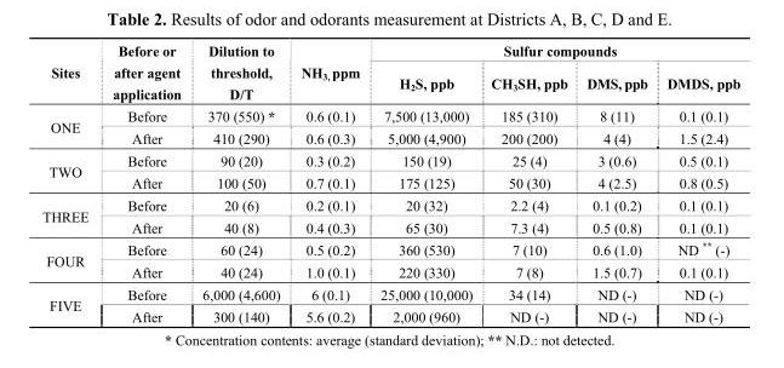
<table><thead><tr><td rowspan="2">Sites</td><td rowspan="2">Before or after agent application</td><td rowspan="2">Dilution to threshold, D/T</td><td rowspan="2">NH<sub>3,</sub> ppm</td><td colspan="4">Sulfur compounds</td></tr><tr><td>H<sub>2</sub>S, ppb</td><td>CH<sub>3</sub>SH, ppb</td><td>DMS, ppb</td><td>DMDS, ppb</td></tr></thead><tbody><tr><td rowspan="2">ONE</td><td>Before</td><td>370 (550) *</td><td>0.6 (0.1)</td><td>7,500 (13,000)</td><td>185 (310)</td><td>8 (11)</td><td>0.1 (0.1)</td></tr><tr><td>After</td><td>410 (290)</td><td>0.6 (0.3)</td><td>5,000 (4,900)</td><td>200 (200)</td><td>4 (4)</td><td>1.5 (2.4)</td></tr><tr><td rowspan="2">TWO</td><td>Before</td><td>90 (20)</td><td>0.3 (0.2)</td><td>150 (19)</td><td>25 (4)</td><td>3 (0.6)</td><td>0.5 (0.1)</td></tr><tr><td>After</td><td>100 (50)</td><td>0.7 (0.1)</td><td>175 (125)</td><td>50 (30)</td><td>4 (2.5)</td><td>0.8 (0.5)</td></tr><tr><td rowspan="2">THREE</td><td>Before</td><td>20 (6)</td><td>0.2 (0.1)</td><td>20 (32)</td><td>2.2 (4)</td><td>0.1 (0.2)</td><td>0.1 (0.1)</td></tr><tr><td>After</td><td>40 (8)</td><td>0.4 (0.3)</td><td>65 (30)</td><td>7.3 (4)</td><td>0.5 (0.8)</td><td>0.1 (0.1)</td></tr><tr><td rowspan="2">FOUR</td><td>Before</td><td>60 (24)</td><td>0.5 (0.2)</td><td>360 (530)</td><td>7 (10)</td><td>0.6 (1.0)</td><td>ND ** (-)</td></tr><tr><td>After</td><td>40 (24)</td><td>1.0 (0.1)</td><td>220 (330)</td><td>7 (8)</td><td>1.5 (0.7)</td><td>0.1 (0.1)</td></tr><tr><td rowspan="2">FIVE</td><td>Before</td><td>6,000 (4,600)</td><td>6 (0.1)</td><td>25,000 (10,000)</td><td>34 (14)</td><td>ND (-)</td><td>ND (-)</td></tr><tr><td>After</td><td>300 (140)</td><td>5.6 (0.2)</td><td>2,000 (960)</td><td>ND (-)</td><td>ND (-)</td><td>ND (-)</td></tr></tbody></table>